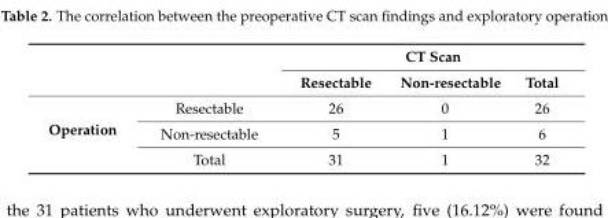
<table><thead><tr><td rowspan="2"></td><td rowspan="2"></td><td colspan="3">CT Scan</td></tr><tr><td>Resectable</td><td>Non-resectable</td><td>Total</td></tr></thead><tbody><tr><td rowspan="3">Operation</td><td>Resectable</td><td>26</td><td>0</td><td>26</td></tr><tr><td>Non-resectable</td><td>5</td><td>1</td><td>6</td></tr><tr><td>Total</td><td>31</td><td>1</td><td>32</td></tr></tbody></table>